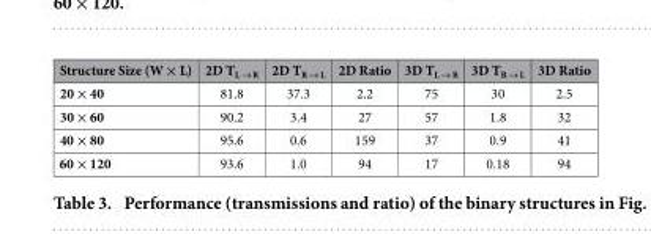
<table><thead><tr><td>Structure Size (W × L)</td><td>2D T<sub>L → R</sub></td><td>2D T<sub>R → L</sub></td><td>2D Ratio</td><td>3D T<sub>L → R</sub></td><td>3D T<sub>R → L</sub></td><td>3D Ratio</td></tr></thead><tbody><tr><td>20 × 40</td><td>81.8</td><td>37.3</td><td>2.2</td><td>75</td><td>30</td><td>2.5</td></tr><tr><td>30 × 60</td><td>90.2</td><td>3.4</td><td>27</td><td>57</td><td>1.8</td><td>32</td></tr><tr><td>40 × 80</td><td>95.6</td><td>0.6</td><td>159</td><td>37</td><td>0.9</td><td>41</td></tr><tr><td>60 × 120</td><td>93.6</td><td>1.0</td><td>94</td><td>17</td><td>0.18</td><td>94</td></tr></tbody></table>